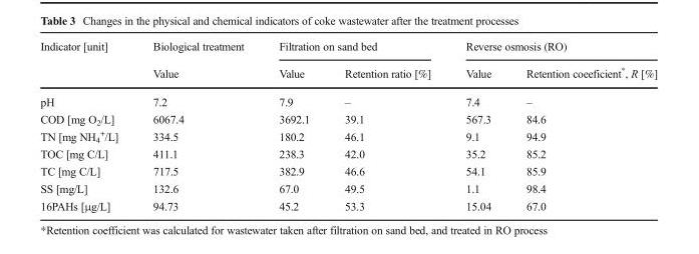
<table><thead><tr><td rowspan="2">Indicator [unit]</td><td rowspan="2">Biological treatment Value</td><td colspan="2">Filtration on sand bed</td><td colspan="2">Reverse osmosis (RO)</td></tr><tr><td>Value</td><td>Retention ratio [%]</td><td>Value</td><td>Retention coeeficient*, R [%]</td></tr></thead><tbody><tr><td>pH</td><td>7.2</td><td>7.9</td><td>–</td><td>7.4</td><td>–</td></tr><tr><td>COD [mg O<sub>2</sub>/L]</td><td>6067.4</td><td>3692.1</td><td>39.1</td><td>567.3</td><td>84.6</td></tr><tr><td>TN [mg NH<sub>4</sub> <sup>+</sup>/L]</td><td>334.5</td><td>180.2</td><td>46.1</td><td>9.1</td><td>94.9</td></tr><tr><td>TOC [mg C/L]</td><td>411.1</td><td>238.3</td><td>42.0</td><td>35.2</td><td>85.2</td></tr><tr><td>TC [mg C/L]</td><td>717.5</td><td>382.9</td><td>46.6</td><td>54.1</td><td>85.9</td></tr><tr><td>SS [mg/L]</td><td>132.6</td><td>67.0</td><td>49.5</td><td>1.1</td><td>98.4</td></tr><tr><td>16PAHs [μg/L]</td><td>94.73</td><td>45.2</td><td>53.3</td><td>15.04</td><td>67.0</td></tr></tbody></table>